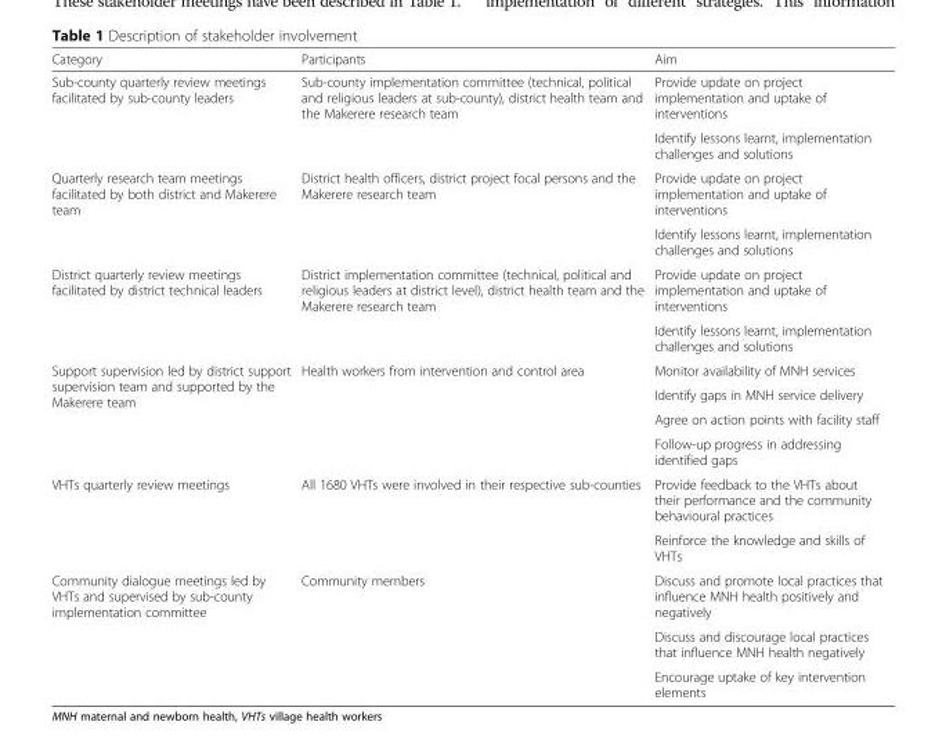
<table><thead><tr><td>Category</td><td>Participants</td><td>Aim</td></tr></thead><tbody><tr><td rowspan="2">Sub-county quarterly review meetings facilitated by sub-county leaders</td><td rowspan="2">Sub-county implementation committee (technical, political and religious leaders at sub-county), district health team and the Makerere research team</td><td>Provide update on project implementation and uptake of interventions</td></tr><tr><td>Identify lessons learnt, implementation challenges and solutions</td></tr><tr><td rowspan="2">Quarterly research team meetings facilitated by both district and Makerere team</td><td rowspan="2">District health officers, district project focal persons and the Makerere research team</td><td>Provide update on project implementation and uptake of interventions</td></tr><tr><td>Identify lessons learnt, implementation challenges and solutions</td></tr><tr><td rowspan="2">District quarterly review meetings facilitated by district technical leaders</td><td rowspan="2">District implementation committee (technical, political and religious leaders at district level), district health team and the Makerere research team</td><td>Provide update on project implementation and uptake of interventions</td></tr><tr><td>Identify lessons learnt, implementation challenges and solutions</td></tr><tr><td rowspan="4">Support supervision led by district support supervision team and supported by the Makerere team</td><td rowspan="4">Health workers from intervention and control area</td><td>Monitor availability of MNH services</td></tr><tr><td>Identify gaps in MNH service delivery</td></tr><tr><td>Agree on action points with facility staff</td></tr><tr><td>Follow-up progress in addressing identified gaps</td></tr><tr><td rowspan="2">VHTs quarterly review meetings</td><td rowspan="2">All 1680 VHTs were involved in their respective sub-counties</td><td>Provide feedback to the VHTs about their performance and the community behavioural practices</td></tr><tr><td>Reinforce the knowledge and skills of VHTs</td></tr><tr><td rowspan="3">Community dialogue meetings led by VHTs and supervised by sub-county implementation committee</td><td rowspan="3">Community members</td><td>Discuss and promote local practices that influence MNH health positively and negatively</td></tr><tr><td>Discuss and discourage local practices that influence MNH health negatively</td></tr><tr><td>Encourage uptake of key intervention elements</td></tr></tbody></table>